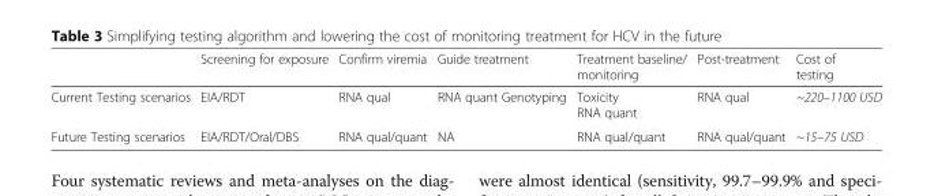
<table><thead><tr><td></td><td>Screening for exposure</td><td>Confirm viremia</td><td>Guide treatment</td><td>Treatment baseline/ monitoring</td><td>Post-treatment</td><td>Cost of testing</td></tr></thead><tbody><tr><td>Current Testing scenarios</td><td>EIA/RDT</td><td>RNA qual</td><td>RNA quant Genotyping</td><td>Toxicity RNA quant</td><td>RNA qual</td><td>~220–1100 USD</td></tr><tr><td>Future Testing scenarios</td><td>EIA/RDT/Oral/DBS</td><td>RNA qual/quant</td><td>NA</td><td>RNA qual/quant</td><td>RNA qual/quant</td><td>~15–75 USD</td></tr></tbody></table>